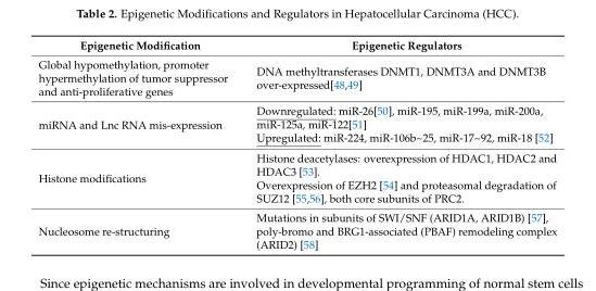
<table><thead><tr><td>Epigenetic Modification</td><td>Epigenetic Regulators</td></tr></thead><tbody><tr><td>Global hypomethylation, promoter hypermethylation of tumor suppressor and anti-proliferative genes</td><td>DNA methyltransferases DNMT1, DNMT3A and DNMT3B over-expressed[48,49]</td></tr><tr><td>miRNA and Lnc RNA mis-expression</td><td>Downregulated: miR-26[50], miR-195, miR-199a, miR-200a, miR-125a, miR-122[51] Upregulated: miR-224, miR-106b~25, miR-17~92, miR-18 [52]</td></tr><tr><td>Histone modifications</td><td>Histone deacetylases: overexpression of HDAC1, HDAC2 and HDAC3 [53]. Overexpression of EZH2 [54] and proteasomal degradation of SUZ12 [55,56], both core subunits of PRC2.</td></tr><tr><td>Nucleosome re-structuring</td><td>Mutations in subunits of SWI/SNF (ARID1A, ARID1B) [57], poly-bromo and BRG1-associated (PBAF) remodeling complex (ARID2) [58]</td></tr></tbody></table>